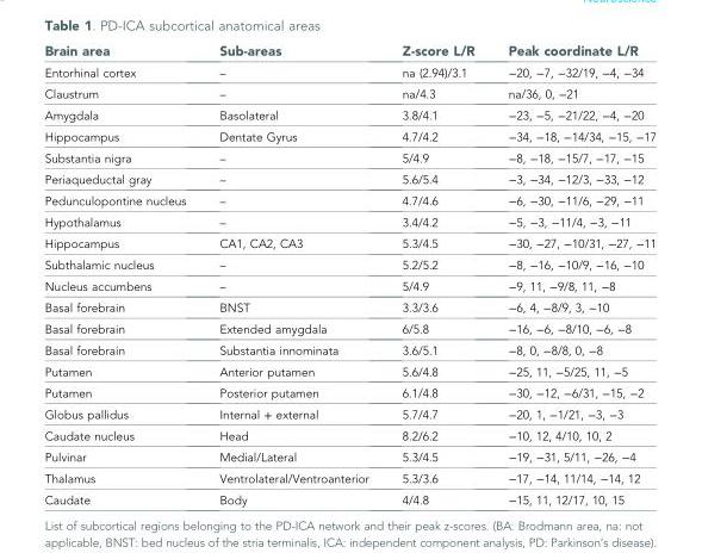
<table><thead><tr><td>Brain area</td><td>Sub-areas</td><td>Z-score L/R</td><td>Peak coordinate L/R</td></tr></thead><tbody><tr><td>Entorhinal cortex</td><td>–</td><td>na (2.94)/3.1</td><td>−20, −7, −32/19, −4, −34</td></tr><tr><td>Claustrum</td><td>–</td><td>na/4.3</td><td>na/36, 0, −21</td></tr><tr><td>Amygdala</td><td>Basolateral</td><td>3.8/4.1</td><td>−23, −5, −21/22, −4, −20</td></tr><tr><td>Hippocampus</td><td>Dentate Gyrus</td><td>4.7/4.2</td><td>−34, −18, −14/34, −15, −17</td></tr><tr><td>Substantia nigra</td><td>–</td><td>5/4.9</td><td>−8, −18, −15/7, −17, −15</td></tr><tr><td>Periaqueductal gray</td><td>–</td><td>5.6/5.4</td><td>−3, −34, −12/3, −33, −12</td></tr><tr><td>Pedunculopontine nucleus</td><td>–</td><td>4.7/4.6</td><td>−6, −30, −11/6, −29, −11</td></tr><tr><td>Hypothalamus</td><td>–</td><td>3.4/4.2</td><td>−5, −3, −11/4, −3, −11</td></tr><tr><td>Hippocampus</td><td>CA1, CA2, CA3</td><td>5.3/4.5</td><td>−30, −27, −10/31, −27, −11</td></tr><tr><td>Subthalamic nucleus</td><td>–</td><td>5.2/5.2</td><td>−8, −16, −10/9, −16, −10</td></tr><tr><td>Nucleus accumbens</td><td>–</td><td>5/4.9</td><td>−9, 11, −9/8, 11, −8</td></tr><tr><td>Basal forebrain</td><td>BNST</td><td>3.3/3.6</td><td>−6, 4, −8/9, 3, −10</td></tr><tr><td>Basal forebrain</td><td>Extended amygdala</td><td>6/5.8</td><td>−16, −6, −8/10, −6, −8</td></tr><tr><td>Basal forebrain</td><td>Substantia innominata</td><td>3.6/5.1</td><td>−8, 0, −8/8, 0, −8</td></tr><tr><td>Putamen</td><td>Anterior putamen</td><td>5.6/4.8</td><td>−25, 11, −5/25, 11, −5</td></tr><tr><td>Putamen</td><td>Posterior putamen</td><td>6.1/4.8</td><td>−30, −12, −6/31, −15, −2</td></tr><tr><td>Globus pallidus</td><td>Internal + external</td><td>5.7/4.7</td><td>−20, 1, −1/21, −3, −3</td></tr><tr><td>Caudate nucleus</td><td>Head</td><td>8.2/6.2</td><td>−10, 12, 4/10, 10, 2</td></tr><tr><td>Pulvinar</td><td>Medial/Lateral</td><td>5.3/4.5</td><td>−19, −31, 5/11, −26, −4</td></tr><tr><td>Thalamus</td><td>Ventrolateral/Ventroanterior</td><td>5.3/3.6</td><td>−17, −14, 11/14, −14, 12</td></tr><tr><td>Caudate</td><td>Body</td><td>4/4.8</td><td>−15, 11, 12/17, 10, 15</td></tr></tbody></table>